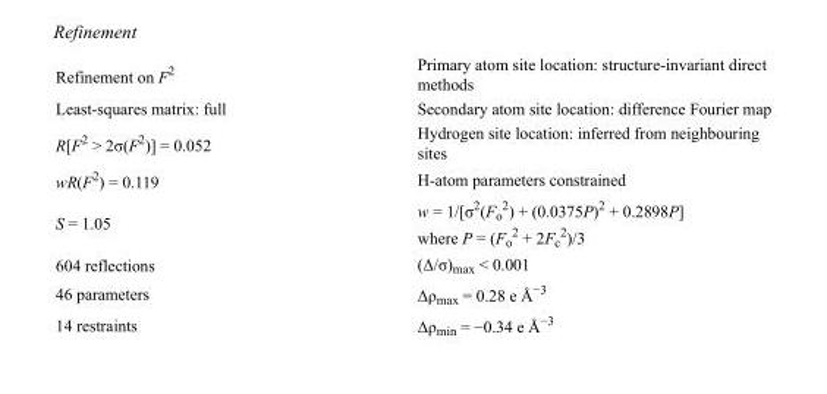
<table><tbody><tr><td>Refinement on F<sup>2</sup></td><td>Primary atom site location: structure-invariant direct methods</td></tr><tr><td>Least-squares matrix: full</td><td>Secondary atom site location: difference Fourier map</td></tr><tr><td>R[F<sup>2</sup> &gt; 2σ(F<sup>2</sup>)] = 0.052</td><td>Hydrogen site location: inferred from neighbouring sites</td></tr><tr><td>wR(F<sup>2</sup>) = 0.119</td><td>H-atom parameters constrained</td></tr><tr><td>S = 1.05</td><td>w = 1/[σ<sup>2</sup>(F<sub>o</sub> <sup>2</sup>) + (0.0375P)<sup>2</sup> + 0.2898P] where P = (F<sub>o</sub> <sup>2</sup> + 2F<sub>c</sub> <sup>2</sup>)/3</td></tr><tr><td>604 reflections</td><td>(Δ/σ)<sub>max</sub> &lt; 0.001</td></tr><tr><td>46 parameters</td><td>Δρ<sub>max</sub> = 0.28 e Å<sup>−3</sup></td></tr><tr><td>14 restraints</td><td>Δρ<sub>min</sub> = −0.34 e Å<sup>−3</sup></td></tr></tbody></table>